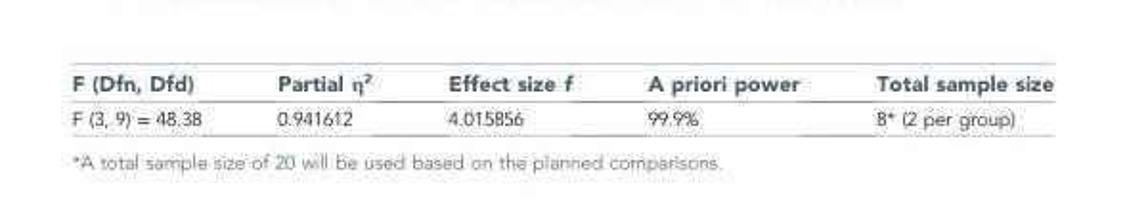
<table><thead><tr><td>F (Dfn, Dfd)</td><td>Partial η<sup>2</sup></td><td>Effect size f</td><td>A priori power</td><td>Total sample size</td></tr></thead><tbody><tr><td>F (3, 9) = 48.38</td><td>0.941612</td><td>4.015856</td><td>99.9%</td><td>8* (2 per group)</td></tr></tbody></table>